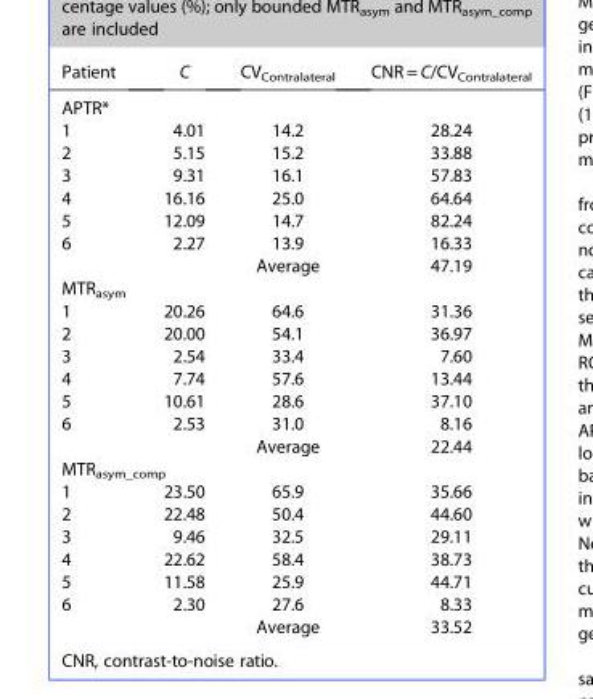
<table><thead><tr><td>Patient</td><td>C</td><td>CV<sub>Contralateral</sub></td><td>CNR = C/CV<sub>Contralateral</sub></td></tr></thead><tbody><tr><td colspan="4">APTR*</td></tr><tr><td>1</td><td>4.01</td><td>14.2</td><td>28.24</td></tr><tr><td>2</td><td>5.15</td><td>15.2</td><td>33.88</td></tr><tr><td>3</td><td>9.31</td><td>16.1</td><td>57.83</td></tr><tr><td>4</td><td>16.16</td><td>25.0</td><td>64.64</td></tr><tr><td>5</td><td>12.09</td><td>14.7</td><td>82.24</td></tr><tr><td rowspan="2">6</td><td>2.27</td><td>13.9</td><td>16.33</td></tr><tr><td></td><td>Average</td><td>47.19</td></tr><tr><td colspan="4">MTR<sub>asym</sub></td></tr><tr><td>1</td><td>20.26</td><td>64.6</td><td>31.36</td></tr><tr><td>2</td><td>20.00</td><td>54.1</td><td>36.97</td></tr><tr><td>3</td><td>2.54</td><td>33.4</td><td>7.60</td></tr><tr><td>4</td><td>7.74</td><td>57.6</td><td>13.44</td></tr><tr><td>5</td><td>10.61</td><td>28.6</td><td>37.10</td></tr><tr><td rowspan="2">6</td><td>2.53</td><td>31.0</td><td>8.16</td></tr><tr><td></td><td>Average</td><td>22.44</td></tr><tr><td colspan="4">MTR<sub>asym_comp</sub></td></tr><tr><td>1</td><td>23.50</td><td>65.9</td><td>35.66</td></tr><tr><td>2</td><td>22.48</td><td>50.4</td><td>44.60</td></tr><tr><td>3</td><td>9.46</td><td>32.5</td><td>29.11</td></tr><tr><td>4</td><td>22.62</td><td>58.4</td><td>38.73</td></tr><tr><td>5</td><td>11.58</td><td>25.9</td><td>44.71</td></tr><tr><td rowspan="2">6</td><td>2.30</td><td>27.6</td><td>8.33</td></tr><tr><td></td><td>Average</td><td>33.52</td></tr></tbody></table>